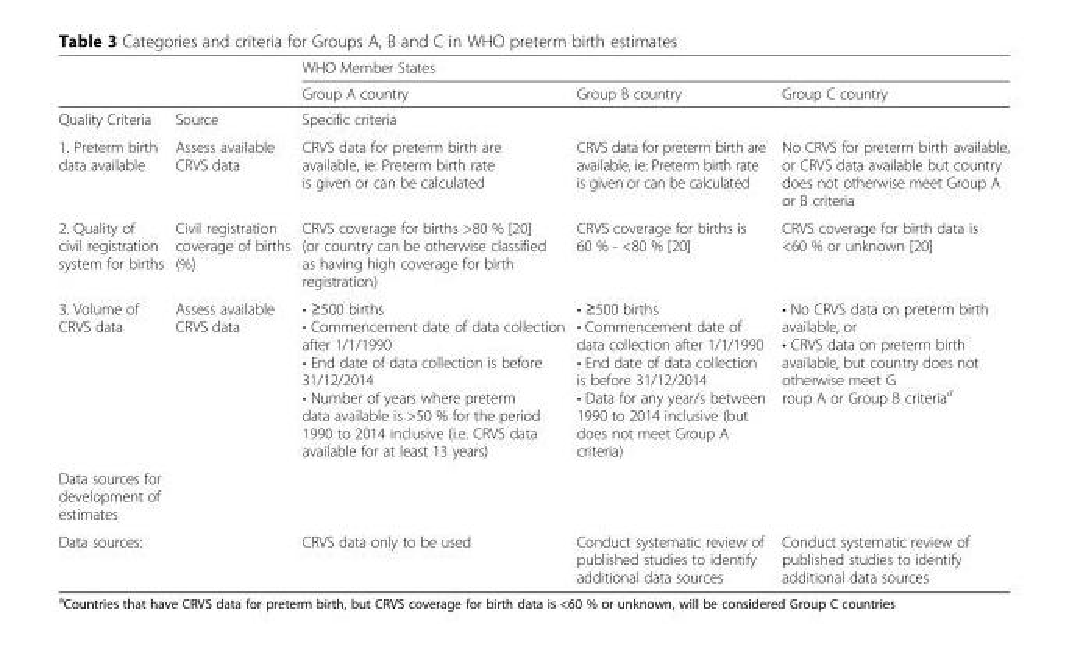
<table><thead><tr><td rowspan="2"></td><td rowspan="2"></td><td colspan="3">WHO Member States</td></tr><tr><td>Group A country</td><td>Group B country</td><td>Group C country</td></tr></thead><tbody><tr><td>Quality Criteria</td><td>Source</td><td colspan="3">Specific criteria</td></tr><tr><td>1. Preterm birth data available</td><td>Assess available CRVS data</td><td>CRVS data for preterm birth are available, ie: Preterm birth rate is given or can be calculated</td><td>CRVS data for preterm birth are available, ie: Preterm birth rate is given or can be calculated</td><td>No CRVS for preterm birth available, or CRVS data available but country does not otherwise meet Group A or B criteria</td></tr><tr><td>2. Quality of civil registration system for births</td><td>Civil registration coverage of births (%)</td><td>CRVS coverage for births &gt;80 % [20] (or country can be otherwise classified as having high coverage for birth registration)</td><td>CRVS coverage for births is 60 % - &lt;80 % [20]</td><td>CRVS coverage for birth data is &lt;60 % or unknown [20]</td></tr><tr><td>3. Volume of CRVS data</td><td>Assess available CRVS data</td><td>• ≥500 births • Commencement date of data collection after 1/1/1990 • End date of data collection is before 31/12/2014 • Number of years where preterm data available is &gt;50 % for the period 1990 to 2014 inclusive (i.e. CRVS data available for at least 13 years)</td><td>• ≥500 births • Commencement date of data collection after 1/1/1990 • End date of data collection is before 31/12/2014 • Data for any year/s between 1990 to 2014 inclusive (but does not meet Group A criteria)</td><td>• No CRVS data on preterm birth available, or • CRVS data on preterm birth available, but country does not otherwise meet G roup A or Group B criteria<sup>a</sup></td></tr><tr><td colspan="5">Data sources for development of estimates</td></tr><tr><td colspan="2">Data sources:</td><td>CRVS data only to be used</td><td>Conduct systematic review of published studies to identify additional data sources</td><td>Conduct systematic review of published studies to identify additional data sources</td></tr></tbody></table>